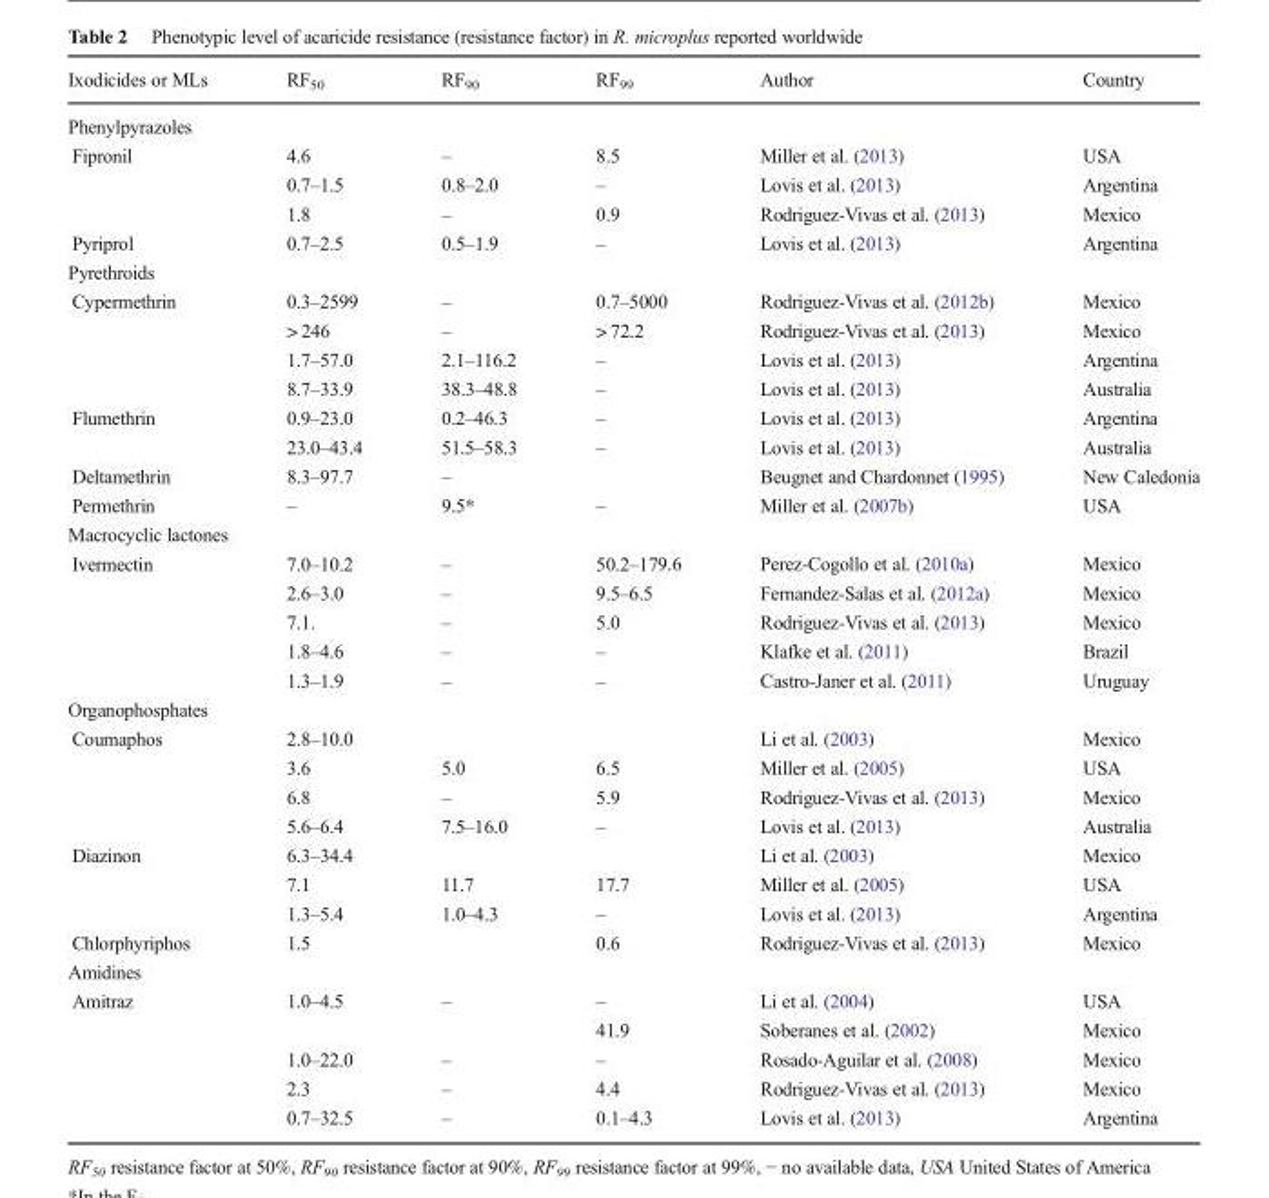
<table><thead><tr><td>Ixodicides or MLs</td><td>RF<sub>50</sub></td><td>RF<sub>90</sub></td><td>RF<sub>99</sub></td><td>Author</td><td>Country</td></tr></thead><tbody><tr><td colspan="6">Phenylpyrazoles</td></tr><tr><td rowspan="3">Fipronil</td><td>4.6</td><td>–</td><td>8.5</td><td>Miller et al. (2013)</td><td>USA</td></tr><tr><td>0.7–1.5</td><td>0.8–2.0</td><td>–</td><td>Lovis et al. (2013)</td><td>Argentina</td></tr><tr><td>1.8</td><td>–</td><td>0.9</td><td>Rodriguez-Vivas et al. (2013)</td><td>Mexico</td></tr><tr><td>Pyriprol</td><td>0.7–2.5</td><td>0.5–1.9</td><td>–</td><td>Lovis et al. (2013)</td><td>Argentina</td></tr><tr><td colspan="6">Pyrethroids</td></tr><tr><td rowspan="4">Cypermethrin</td><td>0.3–2599</td><td>–</td><td>0.7–5000</td><td>Rodriguez-Vivas et al. (2012b)</td><td>Mexico</td></tr><tr><td>&gt; 246</td><td>–</td><td>&gt; 72.2</td><td>Rodriguez-Vivas et al. (2013)</td><td>Mexico</td></tr><tr><td>1.7–57.0</td><td>2.1–116.2</td><td>–</td><td>Lovis et al. (2013)</td><td>Argentina</td></tr><tr><td>8.7–33.9</td><td>38.3–48.8</td><td>–</td><td>Lovis et al. (2013)</td><td>Australia</td></tr><tr><td rowspan="2">Flumethrin</td><td>0.9–23.0</td><td>0.2–46.3</td><td>–</td><td>Lovis et al. (2013)</td><td>Argentina</td></tr><tr><td>23.0–43.4</td><td>51.5–58.3</td><td>–</td><td>Lovis et al. (2013)</td><td>Australia</td></tr><tr><td>Deltamethrin</td><td>8.3–97.7</td><td>–</td><td></td><td>Beugnet and Chardonnet (1995)</td><td>New Caledonia</td></tr><tr><td>Permethrin</td><td>–</td><td>9.5*</td><td>–</td><td>Miller et al. (2007b)</td><td>USA</td></tr><tr><td colspan="6">Macrocyclic lactones</td></tr><tr><td rowspan="5">Ivermectin</td><td>7.0–10.2</td><td>–</td><td>50.2–179.6</td><td>Perez-Cogollo et al. (2010a)</td><td>Mexico</td></tr><tr><td>2.6–3.0</td><td>–</td><td>9.5–6.5</td><td>Fernandez-Salas et al. (2012a)</td><td>Mexico</td></tr><tr><td>7.1.</td><td>–</td><td>5.0</td><td>Rodriguez-Vivas et al. (2013)</td><td>Mexico</td></tr><tr><td>1.8–4.6</td><td>–</td><td>–</td><td>Klafke et al. (2011)</td><td>Brazil</td></tr><tr><td>1.3–1.9</td><td>–</td><td>–</td><td>Castro-Janer et al. (2011)</td><td>Uruguay</td></tr><tr><td colspan="6">Organophosphates</td></tr><tr><td rowspan="4">Coumaphos</td><td>2.8–10.0</td><td></td><td></td><td>Li et al. (2003)</td><td>Mexico</td></tr><tr><td>3.6</td><td>5.0</td><td>6.5</td><td>Miller et al. (2005)</td><td>USA</td></tr><tr><td>6.8</td><td>–</td><td>5.9</td><td>Rodriguez-Vivas et al. (2013)</td><td>Mexico</td></tr><tr><td>5.6–6.4</td><td>7.5–16.0</td><td>–</td><td>Lovis et al. (2013)</td><td>Australia</td></tr><tr><td rowspan="3">Diazinon</td><td>6.3–34.4</td><td></td><td></td><td>Li et al. (2003)</td><td>Mexico</td></tr><tr><td>7.1</td><td>11.7</td><td>17.7</td><td>Miller et al. (2005)</td><td>USA</td></tr><tr><td>1.3–5.4</td><td>1.0–4.3</td><td>–</td><td>Lovis et al. (2013)</td><td>Argentina</td></tr><tr><td>Chlorphyriphos</td><td>1.5</td><td></td><td>0.6</td><td>Rodriguez-Vivas et al. (2013)</td><td>Mexico</td></tr><tr><td colspan="6">Amidines</td></tr><tr><td rowspan="5">Amitraz</td><td>1.0–4.5</td><td>–</td><td>–</td><td>Li et al. (2004)</td><td>USA</td></tr><tr><td></td><td></td><td>41.9</td><td>Soberanes et al. (2002)</td><td>Mexico</td></tr><tr><td>1.0–22.0</td><td>–</td><td>–</td><td>Rosado-Aguilar et al. (2008)</td><td>Mexico</td></tr><tr><td>2.3</td><td>–</td><td>4.4</td><td>Rodriguez-Vivas et al. (2013)</td><td>Mexico</td></tr><tr><td>0.7–32.5</td><td>–</td><td>0.1–4.3</td><td>Lovis et al. (2013)</td><td>Argentina</td></tr></tbody></table>